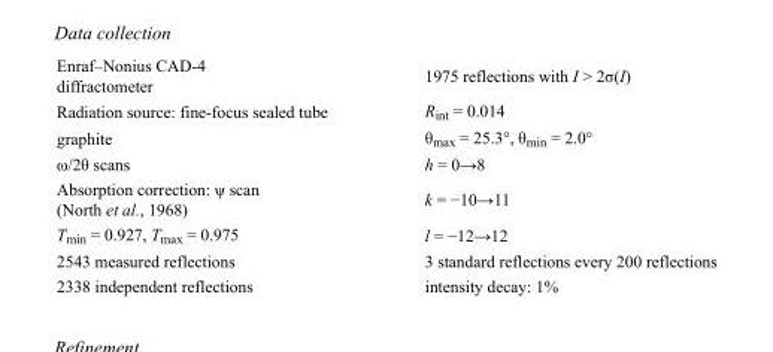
<table><tbody><tr><td>Enraf–Nonius CAD-4 diffractometer</td><td>1975 reflections with I &gt; 2σ(I)</td></tr><tr><td>Radiation source: fine-focus sealed tube</td><td>R<sub>int</sub> = 0.014</td></tr><tr><td>graphite</td><td>θ<sub>max</sub> = 25.3°, θ<sub>min</sub> = 2.0°</td></tr><tr><td>ω/2θ scans</td><td>h = 0→8</td></tr><tr><td>Absorption correction: ψ scan (North et al., 1968)</td><td>k = −10→11</td></tr><tr><td>T<sub>min</sub> = 0.927, T<sub>max</sub> = 0.975</td><td>l = −12→12</td></tr><tr><td>2543 measured reflections</td><td>3 standard reflections every 200 reflections</td></tr><tr><td>2338 independent reflections</td><td>intensity decay: 1%</td></tr></tbody></table>